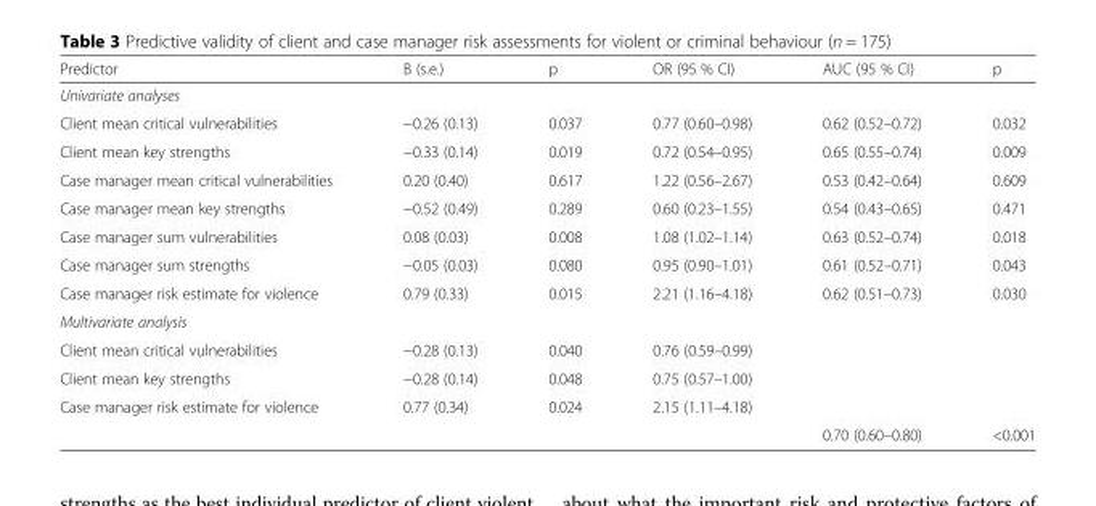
<table><thead><tr><td>Predictor</td><td>B (s.e.)</td><td>p</td><td>OR (95 % CI)</td><td>AUC (95 % CI)</td><td>p</td></tr></thead><tbody><tr><td colspan="6">Univariate analyses</td></tr><tr><td>Client mean critical vulnerabilities</td><td>−0.26 (0.13)</td><td>0.037</td><td>0.77 (0.60–0.98)</td><td>0.62 (0.52–0.72)</td><td>0.032</td></tr><tr><td>Client mean key strengths</td><td>−0.33 (0.14)</td><td>0.019</td><td>0.72 (0.54–0.95)</td><td>0.65 (0.55–0.74)</td><td>0.009</td></tr><tr><td>Case manager mean critical vulnerabilities</td><td>0.20 (0.40)</td><td>0.617</td><td>1.22 (0.56–2.67)</td><td>0.53 (0.42–0.64)</td><td>0.609</td></tr><tr><td>Case manager mean key strengths</td><td>−0.52 (0.49)</td><td>0.289</td><td>0.60 (0.23–1.55)</td><td>0.54 (0.43–0.65)</td><td>0.471</td></tr><tr><td>Case manager sum vulnerabilities</td><td>0.08 (0.03)</td><td>0.008</td><td>1.08 (1.02–1.14)</td><td>0.63 (0.52–0.74)</td><td>0.018</td></tr><tr><td>Case manager sum strengths</td><td>−0.05 (0.03)</td><td>0.080</td><td>0.95 (0.90–1.01)</td><td>0.61 (0.52–0.71)</td><td>0.043</td></tr><tr><td>Case manager risk estimate for violence</td><td>0.79 (0.33)</td><td>0.015</td><td>2.21 (1.16–4.18)</td><td>0.62 (0.51–0.73)</td><td>0.030</td></tr><tr><td colspan="6">Multivariate analysis</td></tr><tr><td>Client mean critical vulnerabilities</td><td>−0.28 (0.13)</td><td>0.040</td><td>0.76 (0.59–0.99)</td><td></td><td></td></tr><tr><td>Client mean key strengths</td><td>−0.28 (0.14)</td><td>0.048</td><td>0.75 (0.57–1.00)</td><td></td><td></td></tr><tr><td rowspan="2">Case manager risk estimate for violence</td><td>0.77 (0.34)</td><td>0.024</td><td>2.15 (1.11–4.18)</td><td></td><td></td></tr><tr><td></td><td></td><td></td><td>0.70 (0.60–0.80)</td><td>&lt;0.001</td></tr></tbody></table>